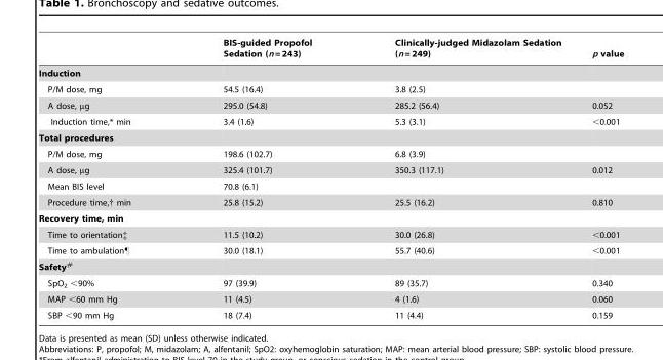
<table><thead><tr><td></td><td>BIS-guided Propofol Sedation (n = 243)</td><td>Clinically-judged Midazolam Sedation (n = 249)</td><td>p value</td></tr></thead><tbody><tr><td colspan="4">Induction</td></tr><tr><td>P/M dose, mg</td><td>54.5 (16.4)</td><td>3.8 (2.5)</td><td></td></tr><tr><td>A dose, µg</td><td>295.0 (54.8)</td><td>285.2 (56.4)</td><td>0.052</td></tr><tr><td>Induction time,* min</td><td>3.4 (1.6)</td><td>5.3 (3.1)</td><td>&lt;0.001</td></tr><tr><td colspan="4">Total procedures</td></tr><tr><td>P/M dose, mg</td><td>198.6 (102.7)</td><td>6.8 (3.9)</td><td></td></tr><tr><td>A dose, µg</td><td>325.4 (101.7)</td><td>350.3 (117.1)</td><td>0.012</td></tr><tr><td>Mean BIS level</td><td>70.8 (6.1)</td><td></td><td></td></tr><tr><td>Procedure time,† min</td><td>25.8 (15.2)</td><td>25.5 (16.2)</td><td>0.810</td></tr><tr><td colspan="4">Recovery time, min</td></tr><tr><td>Time to orientation‡</td><td>11.5 (10.2)</td><td>30.0 (26.8)</td><td>&lt;0.001</td></tr><tr><td>Time to ambulation¶</td><td>30.0 (18.1)</td><td>55.7 (40.6)</td><td>&lt;0.001</td></tr><tr><td colspan="4">Safety#</td></tr><tr><td>SpO<sub>2</sub> &lt;90%</td><td>97 (39.9)</td><td>89 (35.7)</td><td>0.340</td></tr><tr><td>MAP &lt;60 mm Hg</td><td>11 (4.5)</td><td>4 (1.6)</td><td>0.060</td></tr><tr><td>SBP &lt;90 mm Hg</td><td>18 (7.4)</td><td>11 (4.4)</td><td>0.159</td></tr></tbody></table>